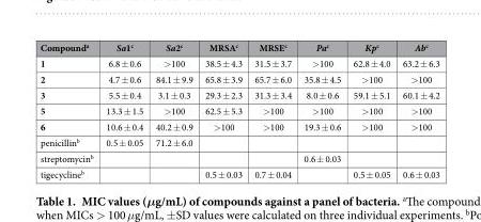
<table><thead><tr><td>Compound<sup>a</sup></td><td>Sa1<sup>c</sup></td><td>Sa2<sup>c</sup></td><td>MRSA<sup>c</sup></td><td>MRSE<sup>c</sup></td><td>Pa<sup>c</sup></td><td>Kp<sup>c</sup></td><td>Ab<sup>c</sup></td></tr></thead><tbody><tr><td>1</td><td>6.8 ± 0.6</td><td>&gt; 100</td><td>38.5 ± 4.3</td><td>31.5 ± 3.7</td><td>&gt; 100</td><td>62.8 ± 4.0</td><td>63.2 ± 6.3</td></tr><tr><td>2</td><td>4.7 ± 0.6</td><td>84.1 ± 9.9</td><td>65.8 ± 3.9</td><td>65.7 ± 6.0</td><td>35.8 ± 4.5</td><td>&gt; 100</td><td>&gt; 100</td></tr><tr><td>3</td><td>5.5 ± 0.4</td><td>3.1 ± 0.3</td><td>29.3 ± 2.3</td><td>31.3 ± 3.4</td><td>8.0 ± 0.6</td><td>59.1 ± 5.1</td><td>60.1 ± 4.2</td></tr><tr><td>5</td><td>13.3 ± 1.5</td><td>&gt; 100</td><td>62.5 ± 5.3</td><td>&gt; 100</td><td>&gt; 100</td><td>&gt; 100</td><td>&gt; 100</td></tr><tr><td>6</td><td>10.6 ± 0.4</td><td>40.2 ± 0.9</td><td>&gt; 100</td><td>&gt; 100</td><td>19.3 ± 0.6</td><td>&gt; 100</td><td>&gt; 100</td></tr><tr><td>penicillin<sup>b</sup></td><td>0.5 ± 0.05</td><td>71.2 ± 6.0</td><td></td><td></td><td></td><td></td><td></td></tr><tr><td>streptomycin<sup>b</sup></td><td></td><td></td><td></td><td></td><td>0.6 ± 0.03</td><td></td><td></td></tr><tr><td>tigecycline<sup>b</sup></td><td></td><td></td><td>0.5 ± 0.03</td><td>0.7 ± 0.04</td><td></td><td>0.5 ± 0.05</td><td>0.6 ± 0.03</td></tr></tbody></table>